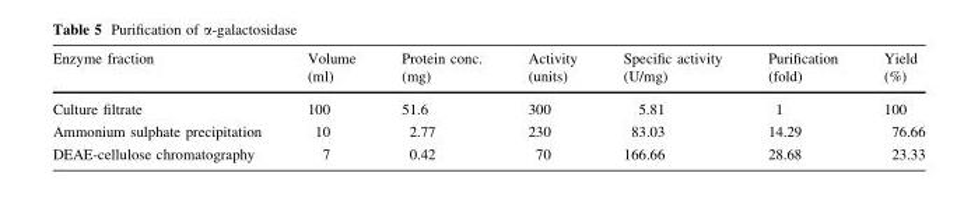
<table><thead><tr><td>Enzyme fraction</td><td>Volume (ml)</td><td>Protein conc. (mg)</td><td>Activity (units)</td><td>Specific activity (U/mg)</td><td>Purification (fold)</td><td>Yield (%)</td></tr></thead><tbody><tr><td>Culture filtrate</td><td>100</td><td>51.6</td><td>300</td><td>5.81</td><td>1</td><td>100</td></tr><tr><td>Ammonium sulphate precipitation</td><td>10</td><td>2.77</td><td>230</td><td>83.03</td><td>14.29</td><td>76.66</td></tr><tr><td>DEAE-cellulose chromatography</td><td>7</td><td>0.42</td><td>70</td><td>166.66</td><td>28.68</td><td>23.33</td></tr></tbody></table>